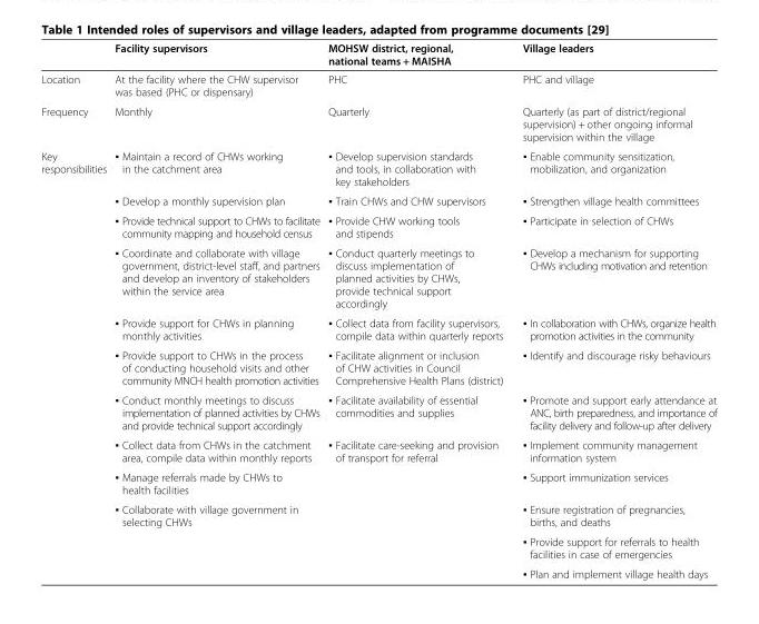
<table><thead><tr><td></td><td>Facility supervisors</td><td>MOHSW district, regional, national teams + MAISHA</td><td>Village leaders</td></tr></thead><tbody><tr><td>Location</td><td>At the facility where the CHW supervisor was based (PHC or dispensary)</td><td>PHC</td><td>PHC and village</td></tr><tr><td>Frequency</td><td>Monthly</td><td>Quarterly</td><td>Quarterly (as part of district/regional supervision) + other ongoing informal supervision within the village</td></tr><tr><td rowspan="12">Key responsibilities</td><td>▪ Maintain a record of CHWs working in the catchment area</td><td>▪ Develop supervision standards and tools, in collaboration with key stakeholders</td><td>▪ Enable community sensitization, mobilization, and organization</td></tr><tr><td>▪ Develop a monthly supervision plan</td><td>▪ Train CHWs and CHW supervisors</td><td>▪ Strengthen village health committees</td></tr><tr><td>▪ Provide technical support to CHWs to facilitate community mapping and household census</td><td>▪ Provide CHW working tools and stipends</td><td>▪ Participate in selection of CHWs</td></tr><tr><td>▪ Coordinate and collaborate with village government, district-level staff, and partners and develop an inventory of stakeholders within the service area</td><td>▪ Conduct quarterly meetings to discuss implementation of planned activities by CHWs, provide technical support accordingly</td><td>▪ Develop a mechanism for supporting CHWs including motivation and retention</td></tr><tr><td>▪ Provide support for CHWs in planning monthly activities</td><td>▪ Collect data from facility supervisors, compile data within quarterly reports</td><td>▪ In collaboration with CHWs, organize health promotion activities in the community</td></tr><tr><td>▪ Provide support to CHWs in the process of conducting household visits and other community MNCH health promotion activities</td><td>▪ Facilitate alignment or inclusion of CHW activities in Council Comprehensive Health Plans (district)</td><td>▪ Identify and discourage risky behaviours</td></tr><tr><td>▪ Conduct monthly meetings to discuss implementation of planned activities by CHWs and provide technical support accordingly</td><td>▪ Facilitate availability of essential commodities and supplies</td><td>▪ Promote and support early attendance at ANC, birth preparedness, and importance of facility delivery and follow-up after delivery</td></tr><tr><td>▪ Collect data from CHWs in the catchment area, compile data within monthly reports</td><td>▪ Facilitate care-seeking and provision of transport for referral</td><td>▪ Implement community management information system</td></tr><tr><td>▪ Manage referrals made by CHWs to health facilities</td><td></td><td>▪ Support immunization services</td></tr><tr><td rowspan="3">▪ Collaborate with village government in selecting CHWs</td><td rowspan="3"></td><td>▪ Ensure registration of pregnancies, births, and deaths</td></tr><tr><td>▪ Provide support for referrals to health facilities in case of emergencies</td></tr><tr><td>▪ Plan and implement village health days</td></tr></tbody></table>